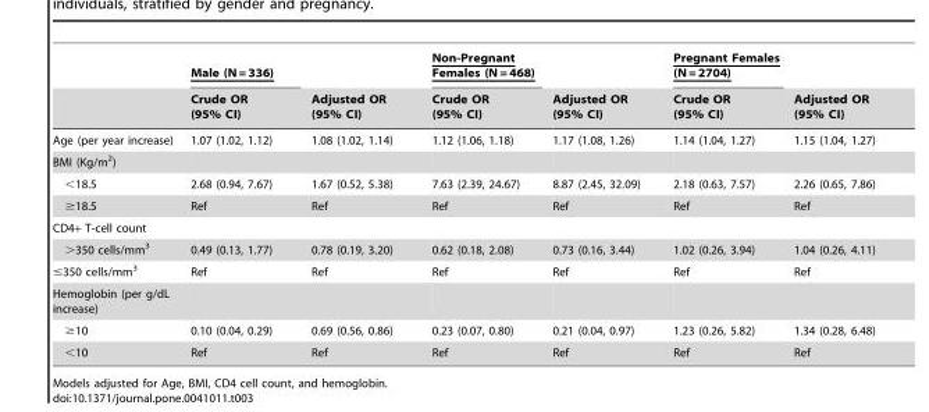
<table><thead><tr><td rowspan="2"></td><td rowspan="2">Male (N = 336) Crude OR (95% CI)</td><td rowspan="2">Adjusted OR (95% CI)</td><td rowspan="2">Non-Pregnant Females (N = 468) Crude OR (95% CI)</td><td rowspan="2">Adjusted OR (95% CI)</td><td rowspan="2">Pregnant Females (N = 2704) Crude OR (95% CI)</td><td rowspan="2">Adjusted OR (95% CI)</td></tr><tr></tr></thead><tbody><tr><td>Age (per year increase)</td><td>1.07 (1.02, 1.12)</td><td>1.08 (1.02, 1.14)</td><td>1.12 (1.06, 1.18)</td><td>1.17 (1.08, 1.26)</td><td>1.14 (1.04, 1.27)</td><td>1.15 (1.04, 1.27)</td></tr><tr><td colspan="7">BMI (Kg/m<sup>2</sup>)</td></tr><tr><td>&lt;18.5</td><td>2.68 (0.94, 7.67)</td><td>1.67 (0.52, 5.38)</td><td>7.63 (2.39, 24.67)</td><td>8.87 (2.45, 32.09)</td><td>2.18 (0.63, 7.57)</td><td>2.26 (0.65, 7.86)</td></tr><tr><td>≥18.5</td><td>Ref</td><td>Ref</td><td>Ref</td><td>Ref</td><td>Ref</td><td>Ref</td></tr><tr><td colspan="7">CD4+ T-cell count</td></tr><tr><td>&gt;350 cells/mm<sup>3</sup></td><td>0.49 (0.13, 1.77)</td><td>0.78 (0.19, 3.20)</td><td>0.62 (0.18, 2.08)</td><td>0.73 (0.16, 3.44)</td><td>1.02 (0.26, 3.94)</td><td>1.04 (0.26, 4.11)</td></tr><tr><td>≤350 cells/mm<sup>3</sup></td><td>Ref</td><td>Ref</td><td>Ref</td><td>Ref</td><td>Ref</td><td>Ref</td></tr><tr><td colspan="7">Hemoglobin (per g/dL increase)</td></tr><tr><td>≥10</td><td>0.10 (0.04, 0.29)</td><td>0.69 (0.56, 0.86)</td><td>0.23 (0.07, 0.80)</td><td>0.21 (0.04, 0.97)</td><td>1.23 (0.26, 5.82)</td><td>1.34 (0.28, 6.48)</td></tr><tr><td>&lt;10</td><td>Ref</td><td>Ref</td><td>Ref</td><td>Ref</td><td>Ref</td><td>Ref</td></tr></tbody></table>